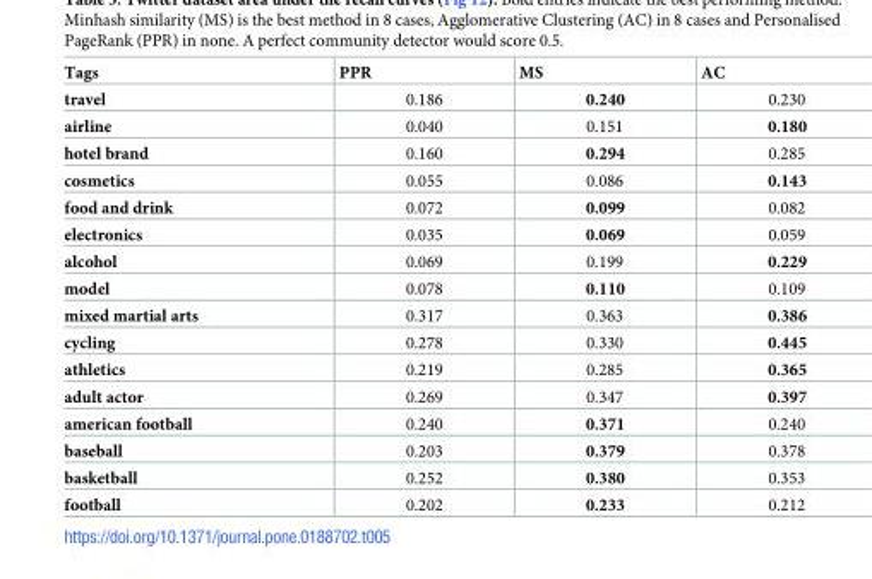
<table><thead><tr><td>Tags</td><td>PPR</td><td>MS</td><td>AC</td></tr></thead><tbody><tr><td>travel</td><td>0.186</td><td>0.240</td><td>0.230</td></tr><tr><td>airline</td><td>0.040</td><td>0.151</td><td>0.180</td></tr><tr><td>hotel brand</td><td>0.160</td><td>0.294</td><td>0.285</td></tr><tr><td>cosmetics</td><td>0.055</td><td>0.086</td><td>0.143</td></tr><tr><td>food and drink</td><td>0.072</td><td>0.099</td><td>0.082</td></tr><tr><td>electronics</td><td>0.035</td><td>0.069</td><td>0.059</td></tr><tr><td>alcohol</td><td>0.069</td><td>0.199</td><td>0.229</td></tr><tr><td>model</td><td>0.078</td><td>0.110</td><td>0.109</td></tr><tr><td>mixed martial arts</td><td>0.317</td><td>0.363</td><td>0.386</td></tr><tr><td>cycling</td><td>0.278</td><td>0.330</td><td>0.445</td></tr><tr><td>athletics</td><td>0.219</td><td>0.285</td><td>0.365</td></tr><tr><td>adult actor</td><td>0.269</td><td>0.347</td><td>0.397</td></tr><tr><td>american football</td><td>0.240</td><td>0.371</td><td>0.240</td></tr><tr><td>baseball</td><td>0.203</td><td>0.379</td><td>0.378</td></tr><tr><td>basketball</td><td>0.252</td><td>0.380</td><td>0.353</td></tr><tr><td>football</td><td>0.202</td><td>0.233</td><td>0.212</td></tr></tbody></table>